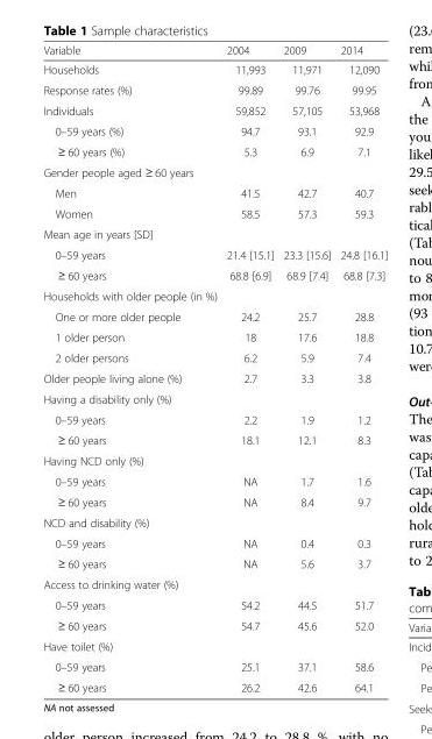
<table><thead><tr><td>Variable</td><td>2004</td><td>2009</td><td>2014</td></tr></thead><tbody><tr><td>Households</td><td>11,993</td><td>11,971</td><td>12,090</td></tr><tr><td>Response rates (%)</td><td>99.89</td><td>99.76</td><td>99.95</td></tr><tr><td>Individuals</td><td>59,852</td><td>57,105</td><td>53,968</td></tr><tr><td>0–59 years (%)</td><td>94.7</td><td>93.1</td><td>92.9</td></tr><tr><td>≥ 60 years (%)</td><td>5.3</td><td>6.9</td><td>7.1</td></tr><tr><td colspan="4">Gender people aged ≥ 60 years</td></tr><tr><td>Men</td><td>41.5</td><td>42.7</td><td>40.7</td></tr><tr><td>Women</td><td>58.5</td><td>57.3</td><td>59.3</td></tr><tr><td colspan="4">Mean age in years [SD]</td></tr><tr><td>0–59 years</td><td>21.4 [15.1]</td><td>23.3 [15.6]</td><td>24.8 [16.1]</td></tr><tr><td>≥ 60 years</td><td>68.8 [6.9]</td><td>68.9 [7.4]</td><td>68.8 [7.3]</td></tr><tr><td colspan="4">Households with older people (in %)</td></tr><tr><td>One or more older people</td><td>24.2</td><td>25.7</td><td>28.8</td></tr><tr><td>1 older person</td><td>18</td><td>17.6</td><td>18.8</td></tr><tr><td>2 older persons</td><td>6.2</td><td>5.9</td><td>7.4</td></tr><tr><td>Older people living alone (%)</td><td>2.7</td><td>3.3</td><td>3.8</td></tr><tr><td colspan="4">Having a disability only (%)</td></tr><tr><td>0–59 years</td><td>2.2</td><td>1.9</td><td>1.2</td></tr><tr><td>≥ 60 years</td><td>18.1</td><td>12.1</td><td>8.3</td></tr><tr><td colspan="4">Having NCD only (%)</td></tr><tr><td>0–59 years</td><td>NA</td><td>1.7</td><td>1.6</td></tr><tr><td>≥ 60 years</td><td>NA</td><td>8.4</td><td>9.7</td></tr><tr><td colspan="4">NCD and disability (%)</td></tr><tr><td>0–59 years</td><td>NA</td><td>0.4</td><td>0.3</td></tr><tr><td>≥ 60 years</td><td>NA</td><td>5.6</td><td>3.7</td></tr><tr><td colspan="4">Access to drinking water (%)</td></tr><tr><td>0–59 years</td><td>54.2</td><td>44.5</td><td>51.7</td></tr><tr><td>≥ 60 years</td><td>54.7</td><td>45.6</td><td>52.0</td></tr><tr><td colspan="4">Have toilet (%)</td></tr><tr><td>0–59 years</td><td>25.1</td><td>37.1</td><td>58.6</td></tr><tr><td>≥ 60 years</td><td>26.2</td><td>42.6</td><td>64.1</td></tr></tbody></table>